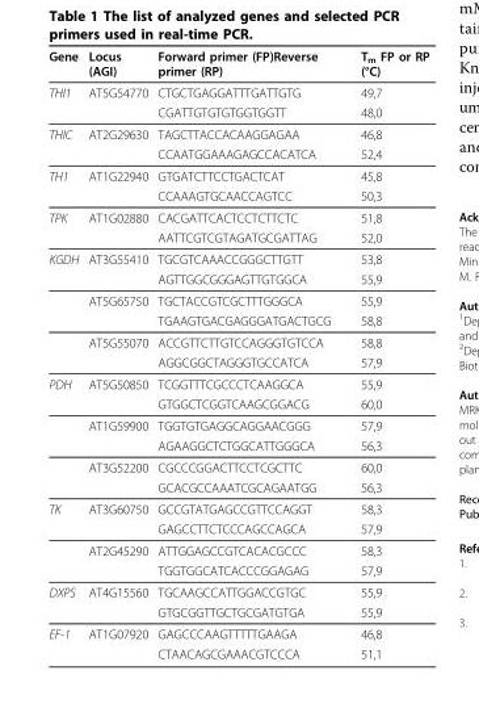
<table><thead><tr><td>Gene</td><td>Locus (AGI)</td><td>Forward primer (FP)Reverse primer (RP)</td><td>T<sub>m</sub> FP or RP (°C)</td></tr></thead><tbody><tr><td rowspan="2">THI1</td><td>AT5G54770</td><td>CTGCTGAGGATTTGATTGTG</td><td>49,7</td></tr><tr><td></td><td>CGATTGTGTGTGGTGGTT</td><td>48,0</td></tr><tr><td rowspan="2">THIC</td><td>AT2G29630</td><td>TAGCTTACCACAAGGAGAA</td><td>46,8</td></tr><tr><td></td><td>CCAATGGAAAGAGCCACATCA</td><td>52,4</td></tr><tr><td rowspan="2">TH1</td><td>AT1G22940</td><td>GTGATCTTCCTGACTCAT</td><td>45,8</td></tr><tr><td></td><td>CCAAAGTGCAACCAGTCC</td><td>50,3</td></tr><tr><td rowspan="2">TPK</td><td>AT1G02880</td><td>CACGATTCACTCCTCTTCTC</td><td>51,8</td></tr><tr><td></td><td>AATTCGTCGTAGATGCGATTAG</td><td>52,0</td></tr><tr><td rowspan="6">KGDH</td><td>AT3G55410</td><td>TGCGTCAAACCGGGCTTGTT</td><td>53,8</td></tr><tr><td></td><td>AGTTGGCGGGAGTTGTGGCA</td><td>55,9</td></tr><tr><td>AT5G65750</td><td>TGCTACCGTCGCTTTGGGCA</td><td>55,9</td></tr><tr><td></td><td>TGAAGTGACGAGGGATGACTGCG</td><td>58,8</td></tr><tr><td>AT5G55070</td><td>ACCGTTCTTGTCCAGGGTGTCCA</td><td>58,8</td></tr><tr><td></td><td>AGGCGGCTAGGGTGCCATCA</td><td>57,9</td></tr><tr><td rowspan="6">PDH</td><td>AT5G50850</td><td>TCGGTTTCGCCCTCAAGGCA</td><td>55,9</td></tr><tr><td></td><td>GTGGCTCGGTCAAGCGGACG</td><td>60,0</td></tr><tr><td>AT1G59900</td><td>TGGTGTGAGGCAGGAACGGG</td><td>57,9</td></tr><tr><td></td><td>AGAAGGCTCTGGCATTGGGCA</td><td>56,3</td></tr><tr><td>AT3G52200</td><td>CGCCCGGACTTCCTCGCTTC</td><td>60,0</td></tr><tr><td></td><td>GCACGCCAAATCGCAGAATGG</td><td>56,3</td></tr><tr><td rowspan="4">TK</td><td>AT3G60750</td><td>GCCGTATGAGCCGTTCCAGGT</td><td>58,3</td></tr><tr><td></td><td>GAGCCTTCTCCCAGCCAGCA</td><td>57,9</td></tr><tr><td>AT2G45290</td><td>ATTGGAGCCGTCACACGCCC</td><td>58,3</td></tr><tr><td></td><td>TGGTGGCATCACCCGGAGAG</td><td>57,9</td></tr><tr><td rowspan="2">DXPS</td><td>AT4G15560</td><td>TGCAAGCCATTGGACCGTGC</td><td>55,9</td></tr><tr><td></td><td>GTGCGGTTGCTGCGATGTGA</td><td>55,9</td></tr><tr><td rowspan="2">EF-1</td><td>AT1G07920</td><td>GAGCCCAAGTTTTTGAAGA</td><td>46,8</td></tr><tr><td></td><td>CTAACAGCGAAACGTCCCA</td><td>51,1</td></tr></tbody></table>